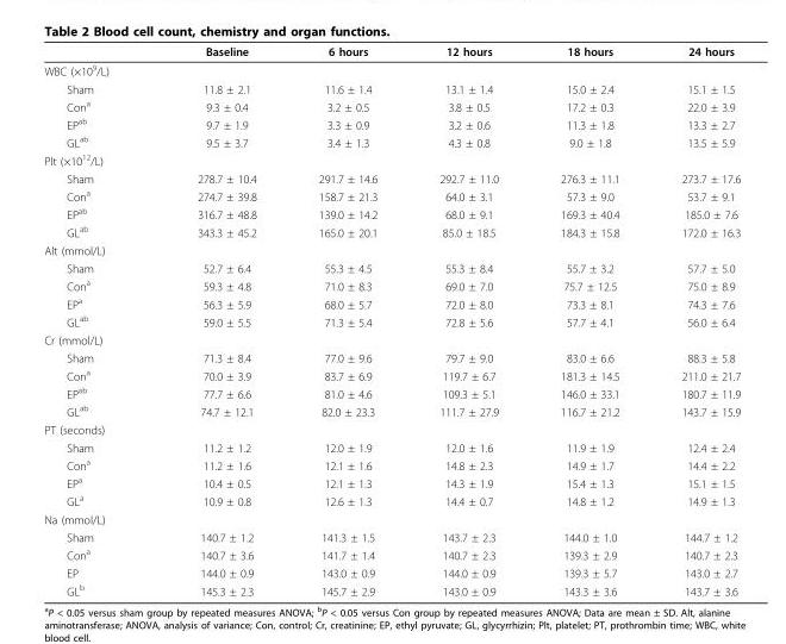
<table><thead><tr><td></td><td>Baseline</td><td>6 hours</td><td>12 hours</td><td>18 hours</td><td>24 hours</td></tr></thead><tbody><tr><td colspan="6">WBC (×10<sup>9</sup>/L)</td></tr><tr><td>Sham</td><td>11.8 ± 2.1</td><td>11.6 ± 1.4</td><td>13.1 ± 1.4</td><td>15.0 ± 2.4</td><td>15.1 ± 1.5</td></tr><tr><td>Con<sup>a</sup></td><td>9.3 ± 0.4</td><td>3.2 ± 0.5</td><td>3.8 ± 0.5</td><td>17.2 ± 0.3</td><td>22.0 ± 3.9</td></tr><tr><td>EP<sup>ab</sup></td><td>9.7 ± 1.9</td><td>3.3 ± 0.9</td><td>3.2 ± 0.6</td><td>11.3 ± 1.8</td><td>13.3 ± 2.7</td></tr><tr><td>GL<sup>ab</sup></td><td>9.5 ± 3.7</td><td>3.4 ± 1.3</td><td>4.3 ± 0.8</td><td>9.0 ± 1.8</td><td>13.5 ± 5.9</td></tr><tr><td colspan="6">Plt (×10<sup>12</sup>/L)</td></tr><tr><td>Sham</td><td>278.7 ± 10.4</td><td>291.7 ± 14.6</td><td>292.7 ± 11.0</td><td>276.3 ± 11.1</td><td>273.7 ± 17.6</td></tr><tr><td>Con<sup>a</sup></td><td>274.7 ± 39.8</td><td>158.7 ± 21.3</td><td>64.0 ± 3.1</td><td>57.3 ± 9.0</td><td>53.7 ± 9.1</td></tr><tr><td>EP<sup>ab</sup></td><td>316.7 ± 48.8</td><td>139.0 ± 14.2</td><td>68.0 ± 9.1</td><td>169.3 ± 40.4</td><td>185.0 ± 7.6</td></tr><tr><td>GL<sup>ab</sup></td><td>343.3 ± 45.2</td><td>165.0 ± 20.1</td><td>85.0 ± 18.5</td><td>184.3 ± 15.8</td><td>172.0 ± 16.3</td></tr><tr><td colspan="6">Alt (mmol/L)</td></tr><tr><td>Sham</td><td>52.7 ± 6.4</td><td>55.3 ± 4.5</td><td>55.3 ± 8.4</td><td>55.7 ± 3.2</td><td>57.7 ± 5.0</td></tr><tr><td>Con<sup>a</sup></td><td>59.3 ± 4.8</td><td>71.0 ± 8.3</td><td>69.0 ± 7.0</td><td>75.7 ± 12.5</td><td>75.0 ± 8.9</td></tr><tr><td>EP<sup>a</sup></td><td>56.3 ± 5.9</td><td>68.0 ± 5.7</td><td>72.0 ± 8.0</td><td>73.3 ± 8.1</td><td>74.3 ± 7.6</td></tr><tr><td>GL<sup>ab</sup></td><td>59.0 ± 5.5</td><td>71.3 ± 5.4</td><td>72.8 ± 5.6</td><td>57.7 ± 4.1</td><td>56.0 ± 6.4</td></tr><tr><td colspan="6">Cr (mmol/L)</td></tr><tr><td>Sham</td><td>71.3 ± 8.4</td><td>77.0 ± 9.6</td><td>79.7 ± 9.0</td><td>83.0 ± 6.6</td><td>88.3 ± 5.8</td></tr><tr><td>Con<sup>a</sup></td><td>70.0 ± 3.9</td><td>83.7 ± 6.9</td><td>119.7 ± 6.7</td><td>181.3 ± 14.5</td><td>211.0 ± 21.7</td></tr><tr><td>EP<sup>ab</sup></td><td>77.7 ± 6.6</td><td>81.0 ± 4.6</td><td>109.3 ± 5.1</td><td>146.0 ± 33.1</td><td>180.7 ± 11.9</td></tr><tr><td>GL<sup>ab</sup></td><td>74.7 ± 12.1</td><td>82.0 ± 23.3</td><td>111.7 ± 27.9</td><td>116.7 ± 21.2</td><td>143.7 ± 15.9</td></tr><tr><td colspan="6">PT (seconds)</td></tr><tr><td>Sham</td><td>11.2 ± 1.2</td><td>12.0 ± 1.9</td><td>12.0 ± 1.6</td><td>11.9 ± 1.9</td><td>12.4 ± 2.4</td></tr><tr><td>Con<sup>a</sup></td><td>11.2 ± 1.6</td><td>12.1 ± 1.6</td><td>14.8 ± 2.3</td><td>14.9 ± 1.7</td><td>14.4 ± 2.2</td></tr><tr><td>EP<sup>a</sup></td><td>10.4 ± 0.5</td><td>12.1 ± 1.3</td><td>14.3 ± 1.9</td><td>15.4 ± 1.3</td><td>15.1 ± 1.5</td></tr><tr><td>GL<sup>a</sup></td><td>10.9 ± 0.8</td><td>12.6 ± 1.3</td><td>14.4 ± 0.7</td><td>14.8 ± 1.2</td><td>14.9 ± 1.3</td></tr><tr><td colspan="6">Na (mmol/L)</td></tr><tr><td>Sham</td><td>140.7 ± 1.2</td><td>141.3 ± 1.5</td><td>143.7 ± 2.3</td><td>144.0 ± 1.0</td><td>144.7 ± 1.2</td></tr><tr><td>Con<sup>a</sup></td><td>140.7 ± 3.6</td><td>141.7 ± 1.4</td><td>140.7 ± 2.3</td><td>139.3 ± 2.9</td><td>140.7 ± 2.3</td></tr><tr><td>EP</td><td>144.0 ± 0.9</td><td>143.0 ± 0.9</td><td>144.0 ± 0.9</td><td>139.3 ± 5.7</td><td>143.0 ± 2.7</td></tr><tr><td>GL<sup>b</sup></td><td>145.3 ± 2.3</td><td>145.7 ± 2.9</td><td>143.0 ± 0.9</td><td>143.3 ± 3.6</td><td>143.7 ± 3.6</td></tr></tbody></table>